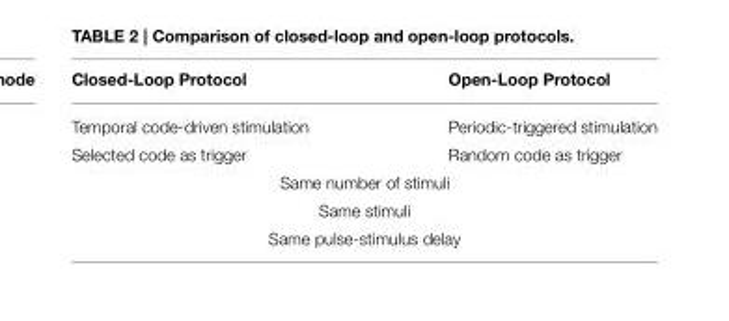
<table><thead><tr><td>Closed-Loop Protocol</td><td>Open-Loop Protocol</td></tr></thead><tbody><tr><td>Temporal code-driven stimulation</td><td>Periodic-triggered stimulation</td></tr><tr><td>Selected code as trigger</td><td>Random code as trigger</td></tr><tr><td colspan="2">Same number of stimuli</td></tr><tr><td colspan="2">Same stimuli</td></tr><tr><td colspan="2">Same pulse-stimulus delay</td></tr></tbody></table>